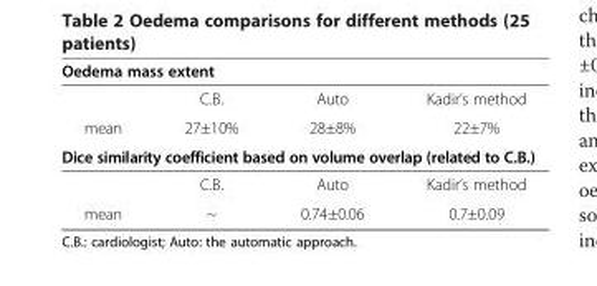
<table><thead><tr><td colspan="4">Oedema mass extent</td></tr><tr><td></td><td>C.B.</td><td>Auto</td><td>Kadir’s method</td></tr></thead><tbody><tr><td>mean</td><td>27±10%</td><td>28±8%</td><td>22±7%</td></tr><tr><td colspan="4">Dice similarity coefficient based on volume overlap (related to C.B.)</td></tr><tr><td></td><td>C.B.</td><td>Auto</td><td>Kadir’s method</td></tr><tr><td>mean</td><td>~</td><td>0.74±0.06</td><td>0.7±0.09</td></tr></tbody></table>